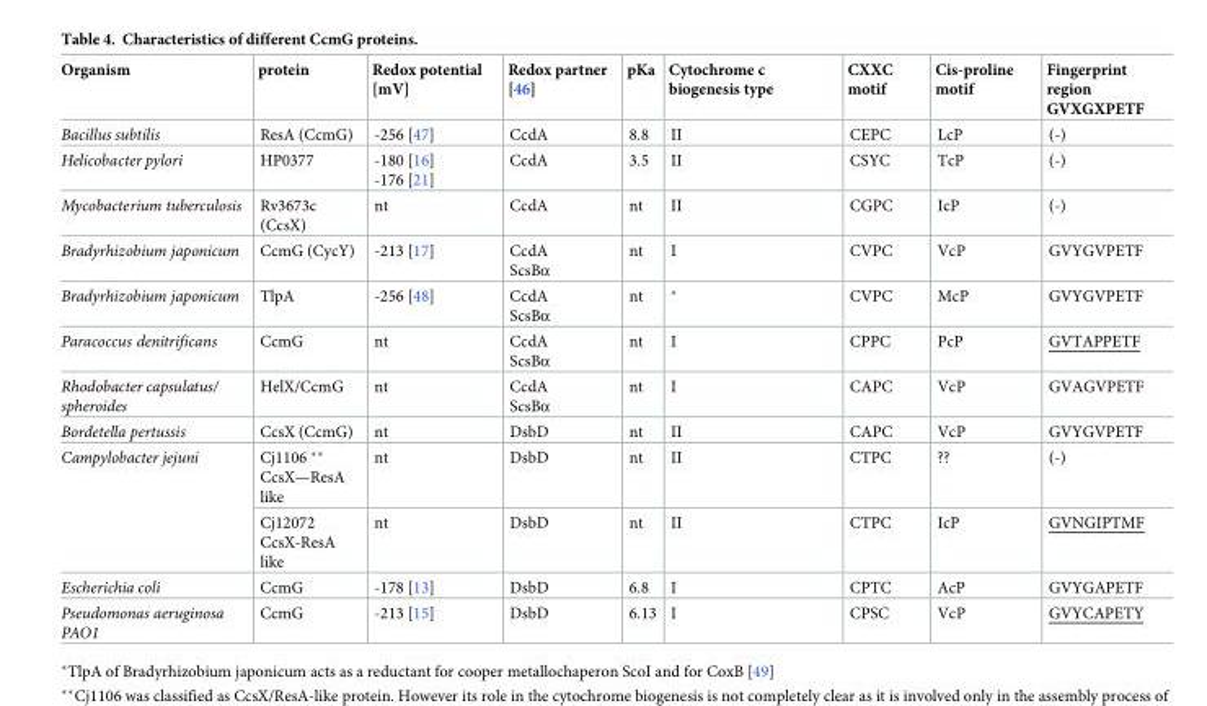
<table><thead><tr><td>Organism</td><td>protein</td><td>Redox potential [mV]</td><td>Redox partner [46]</td><td>pKa</td><td>Cytochrome c biogenesis type</td><td>CXXC motif</td><td>Cis-proline motif</td><td>Fingerprint region GVXGXPETF</td></tr></thead><tbody><tr><td>Bacillus subtilis</td><td>ResA (CcmG)</td><td>-256 [47]</td><td>CcdA</td><td>8.8</td><td>II</td><td>CEPC</td><td>LcP</td><td>(-)</td></tr><tr><td>Helicobacter pylori</td><td>HP0377</td><td>-180 [16] -176 [21]</td><td>CcdA</td><td>3.5</td><td>II</td><td>CSYC</td><td>TcP</td><td>(-)</td></tr><tr><td>Mycobacterium tuberculosis</td><td>Rv3673c (CcsX)</td><td>nt</td><td>CcdA</td><td>nt</td><td>II</td><td>CGPC</td><td>IcP</td><td>(-)</td></tr><tr><td>Bradyrhizobium japonicum</td><td>CcmG (CycY)</td><td>-213 [17]</td><td>CcdA ScsBα</td><td>nt</td><td>I</td><td>CVPC</td><td>VcP</td><td>GVYGVPETF</td></tr><tr><td>Bradyrhizobium japonicum</td><td>TlpA</td><td>-256 [48]</td><td>CcdA ScsBα</td><td>nt</td><td>*</td><td>CVPC</td><td>McP</td><td>GVYGVPETF</td></tr><tr><td>Paracoccus denitrificans</td><td>CcmG</td><td>nt</td><td>CcdA ScsBα</td><td>nt</td><td>I</td><td>CPPC</td><td>PcP</td><td>GVTAPPETF</td></tr><tr><td>Rhodobacter capsulatus/ spheroides</td><td>HelX/CcmG</td><td>nt</td><td>CcdA ScsBα</td><td>nt</td><td>I</td><td>CAPC</td><td>VcP</td><td>GVAGVPETF</td></tr><tr><td>Bordetella pertussis</td><td>CcsX (CcmG)</td><td>nt</td><td>DsbD</td><td>nt</td><td>II</td><td>CAPC</td><td>VcP</td><td>GVYGVPETF</td></tr><tr><td rowspan="2">Campylobacter jejuni</td><td>Cj1106 ** CcsX—ResA like</td><td>nt</td><td>DsbD</td><td>nt</td><td>II</td><td>CTPC</td><td>??</td><td>(-)</td></tr><tr><td>Cj12072 CcsX-ResA like</td><td>nt</td><td>DsbD</td><td>nt</td><td>II</td><td>CTPC</td><td>IcP</td><td>GVNGIPTMF</td></tr><tr><td>Escherichia coli</td><td>CcmG</td><td>-178 [13]</td><td>DsbD</td><td>6.8</td><td>I</td><td>CPTC</td><td>AcP</td><td>GVYGAPETF</td></tr><tr><td>Pseudomonas aeruginosa PAO1</td><td>CcmG</td><td>-213 [15]</td><td>DsbD</td><td>6.13</td><td>I</td><td>CPSC</td><td>VcP</td><td>GVYCAPETY</td></tr></tbody></table>